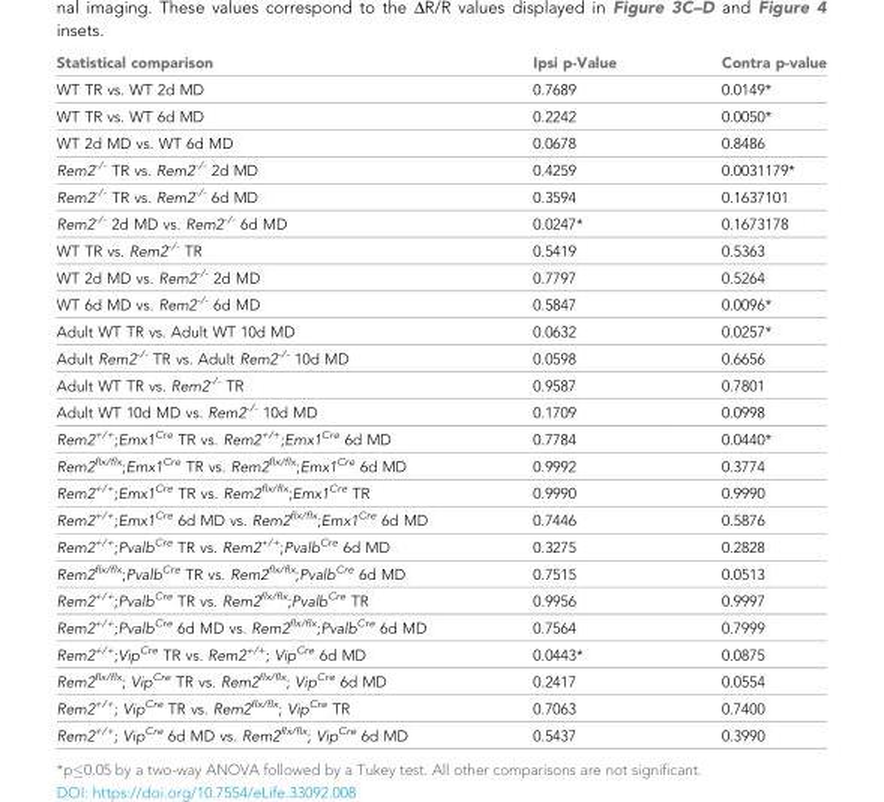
<table><thead><tr><td>Statistical comparison</td><td>Ipsi p-Value</td><td>Contra p-value</td></tr></thead><tbody><tr><td>WT TR vs. WT 2d MD</td><td>0.7689</td><td>0.0149*</td></tr><tr><td>WT TR vs. WT 6d MD</td><td>0.2242</td><td>0.0050*</td></tr><tr><td>WT 2d MD vs. WT 6d MD</td><td>0.0678</td><td>0.8486</td></tr><tr><td>Rem2<sup>-/-</sup> TR vs. Rem2<sup>-/-</sup> 2d MD</td><td>0.4259</td><td>0.0031179*</td></tr><tr><td>Rem2<sup>-/-</sup> TR vs. Rem2<sup>-/-</sup> 6d MD</td><td>0.3594</td><td>0.1637101</td></tr><tr><td>Rem2<sup>-/-</sup> 2d MD vs. Rem2<sup>-/-</sup> 6d MD</td><td>0.0247*</td><td>0.1673178</td></tr><tr><td>WT TR vs. Rem2<sup>-/-</sup> TR</td><td>0.5419</td><td>0.5363</td></tr><tr><td>WT 2d MD vs. Rem2<sup>-/-</sup> 2d MD</td><td>0.7797</td><td>0.5264</td></tr><tr><td>WT 6d MD vs. Rem2<sup>-/-</sup> 6d MD</td><td>0.5847</td><td>0.0096*</td></tr><tr><td>Adult WT TR vs. Adult WT 10d MD</td><td>0.0632</td><td>0.0257*</td></tr><tr><td>Adult Rem2<sup>-/-</sup> TR vs. Adult Rem2<sup>-/-</sup> 10d MD</td><td>0.0598</td><td>0.6656</td></tr><tr><td>Adult WT TR vs. Rem2<sup>-/-</sup> TR</td><td>0.9587</td><td>0.7801</td></tr><tr><td>Adult WT 10d MD vs. Rem2<sup>-/-</sup> 10d MD</td><td>0.1709</td><td>0.0998</td></tr><tr><td>Rem2<sup>+/+</sup>;Emx1<sup>Cre</sup> TR vs. Rem2<sup>+/+</sup>;Emx1<sup>Cre</sup> 6d MD</td><td>0.7784</td><td>0.0440*</td></tr><tr><td>Rem2<sup>flx/flx</sup>;Emx1<sup>Cre</sup> TR vs. Rem2<sup>flx/flx</sup>;Emx1<sup>Cre</sup> 6d MD</td><td>0.9992</td><td>0.3774</td></tr><tr><td>Rem2<sup>+/+</sup>;Emx1<sup>Cre</sup> TR vs. Rem2<sup>flx/flx</sup>;Emx1<sup>Cre</sup> TR</td><td>0.9990</td><td>0.9990</td></tr><tr><td>Rem2<sup>+/+</sup>;Emx1<sup>Cre</sup> 6d MD vs. Rem2<sup>flx/flx</sup>;Emx1<sup>Cre</sup> 6d MD</td><td>0.7446</td><td>0.5876</td></tr><tr><td>Rem2<sup>+/+</sup>;Pvalb<sup>Cre</sup> TR vs. Rem2<sup>+/+</sup>;Pvalb<sup>Cre</sup> 6d MD</td><td>0.3275</td><td>0.2828</td></tr><tr><td>Rem2<sup>flx/flx</sup>;Pvalb<sup>Cre</sup> TR vs. Rem2<sup>flx/flx</sup>;Pvalb<sup>Cre</sup> 6d MD</td><td>0.7515</td><td>0.0513</td></tr><tr><td>Rem2<sup>+/+</sup>;Pvalb<sup>Cre</sup> TR vs. Rem2<sup>flx/flx</sup>;Pvalb<sup>Cre</sup> TR</td><td>0.9956</td><td>0.9997</td></tr><tr><td>Rem2<sup>+/+</sup>;Pvalb<sup>Cre</sup> 6d MD vs. Rem2<sup>flx/flx</sup>;Pvalb<sup>Cre</sup> 6d MD</td><td>0.7564</td><td>0.7999</td></tr><tr><td>Rem2<sup>+/+</sup>;Vip<sup>Cre</sup> TR vs. Rem2<sup>+/+</sup>; Vip<sup>Cre</sup> 6d MD</td><td>0.0443*</td><td>0.0875</td></tr><tr><td>Rem2<sup>flx/flx</sup>; Vip<sup>Cre</sup> TR vs. Rem2<sup>flx/flx</sup>; Vip<sup>Cre</sup> 6d MD</td><td>0.2417</td><td>0.0554</td></tr><tr><td>Rem2<sup>+/+</sup>; Vip<sup>Cre</sup> TR vs. Rem2<sup>flx/flx</sup>; Vip<sup>Cre</sup> TR</td><td>0.7063</td><td>0.7400</td></tr><tr><td>Rem2<sup>+/+</sup>; Vip<sup>Cre</sup> 6d MD vs. Rem2<sup>flx/flx</sup>; Vip<sup>Cre</sup> 6d MD</td><td>0.5437</td><td>0.3990</td></tr></tbody></table>